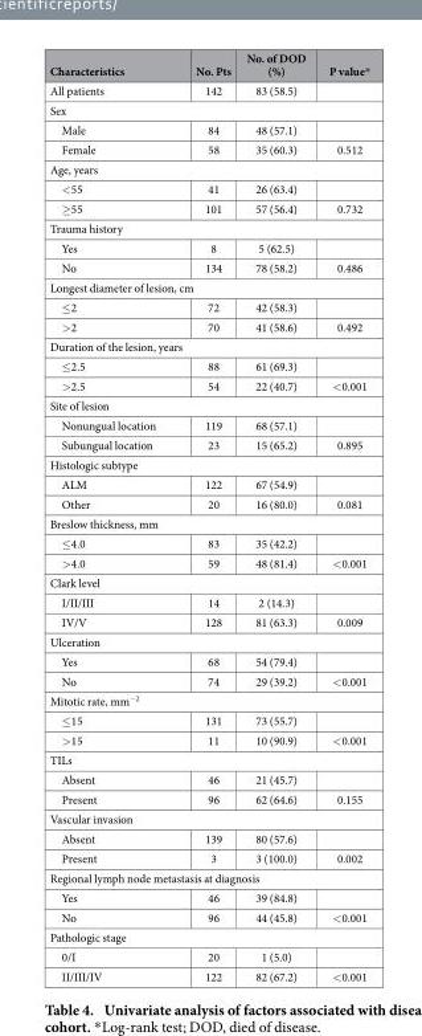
<table><thead><tr><td>Characteristics</td><td>No. Pts</td><td>No. of DOD (%)</td><td>P value*</td></tr></thead><tbody><tr><td>All patients</td><td>142</td><td>83 (58.5)</td><td></td></tr><tr><td colspan="4">Sex</td></tr><tr><td>Male</td><td>84</td><td>48 (57.1)</td><td></td></tr><tr><td>Female</td><td>58</td><td>35 (60.3)</td><td>0.512</td></tr><tr><td colspan="4">Age, years</td></tr><tr><td>&lt; 55</td><td>41</td><td>26 (63.4)</td><td></td></tr><tr><td>≥ 55</td><td>101</td><td>57 (56.4)</td><td>0.732</td></tr><tr><td colspan="4">Trauma history</td></tr><tr><td>Yes</td><td>8</td><td>5 (62.5)</td><td></td></tr><tr><td>No</td><td>134</td><td>78 (58.2)</td><td>0.486</td></tr><tr><td colspan="4">Longest diameter of lesion, cm</td></tr><tr><td>≤ 2</td><td>72</td><td>42 (58.3)</td><td></td></tr><tr><td>&gt; 2</td><td>70</td><td>41 (58.6)</td><td>0.492</td></tr><tr><td colspan="4">Duration of the lesion, years</td></tr><tr><td>≤ 2.5</td><td>88</td><td>61 (69.3)</td><td></td></tr><tr><td>&gt; 2.5</td><td>54</td><td>22 (40.7)</td><td>&lt; 0.001</td></tr><tr><td colspan="4">Site of lesion</td></tr><tr><td>Nonungual location</td><td>119</td><td>68 (57.1)</td><td></td></tr><tr><td>Subungual location</td><td>23</td><td>15 (65.2)</td><td>0.895</td></tr><tr><td colspan="4">Histologic subtype</td></tr><tr><td>ALM</td><td>122</td><td>67 (54.9)</td><td></td></tr><tr><td>Other</td><td>20</td><td>16 (80.0)</td><td>0.081</td></tr><tr><td colspan="4">Breslow thickness, mm</td></tr><tr><td>≤ 4.0</td><td>83</td><td>35 (42.2)</td><td></td></tr><tr><td>&gt; 4.0</td><td>59</td><td>48 (81.4)</td><td>&lt; 0.001</td></tr><tr><td colspan="4">Clark level</td></tr><tr><td>I/II/III</td><td>14</td><td>2 (14.3)</td><td></td></tr><tr><td>IV/V</td><td>128</td><td>81 (63.3)</td><td>0.009</td></tr><tr><td colspan="4">Ulceration</td></tr><tr><td>Yes</td><td>68</td><td>54 (79.4)</td><td></td></tr><tr><td>No</td><td>74</td><td>29 (39.2)</td><td>&lt; 0.001</td></tr><tr><td colspan="4">Mitotic rate, mm<sup>−2</sup></td></tr><tr><td>≤ 15</td><td>131</td><td>73 (55.7)</td><td></td></tr><tr><td>&gt; 15</td><td>11</td><td>10 (90.9)</td><td>&lt; 0.001</td></tr><tr><td colspan="4">TILs</td></tr><tr><td>Absent</td><td>46</td><td>21 (45.7)</td><td></td></tr><tr><td>Present</td><td>96</td><td>62 (64.6)</td><td>0.155</td></tr><tr><td colspan="4">Vascular invasion</td></tr><tr><td>Absent</td><td>139</td><td>80 (57.6)</td><td></td></tr><tr><td>Present</td><td>3</td><td>3 (100.0)</td><td>0.002</td></tr><tr><td colspan="4">Regional lymph node metastasis at diagnosis</td></tr><tr><td>Yes</td><td>46</td><td>39 (84.8)</td><td></td></tr><tr><td>No</td><td>96</td><td>44 (45.8)</td><td>&lt; 0.001</td></tr><tr><td colspan="4">Pathologic stage</td></tr><tr><td>0/I</td><td>20</td><td>1 (5.0)</td><td></td></tr><tr><td>II/III/IV</td><td>122</td><td>82 (67.2)</td><td>&lt; 0.001</td></tr></tbody></table>